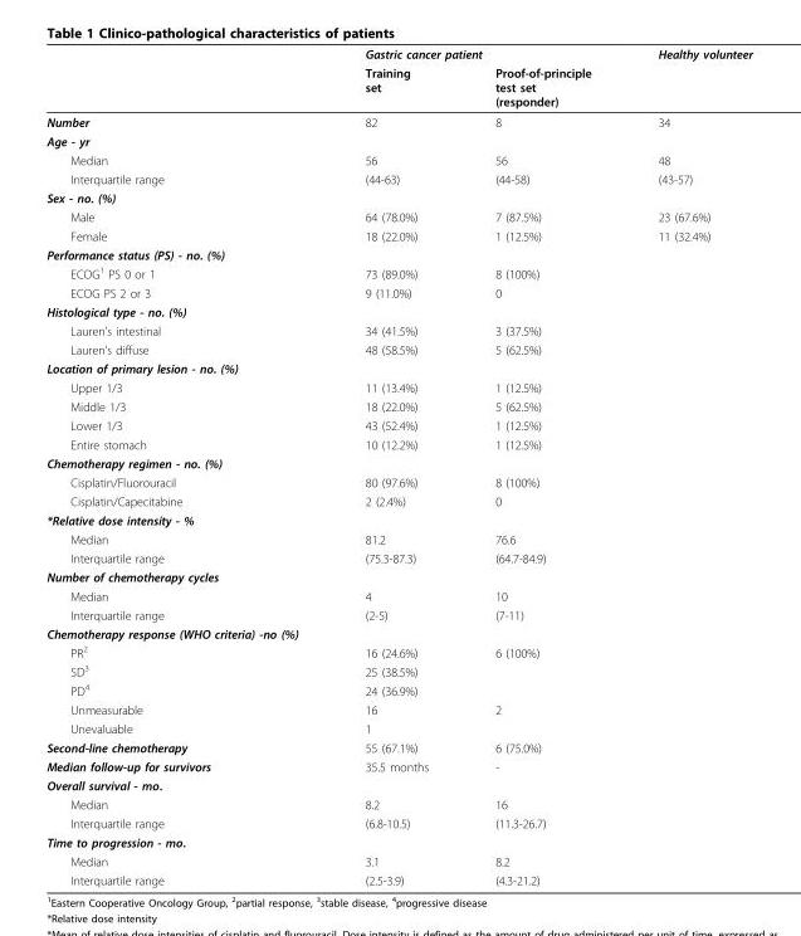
<table><thead><tr><td rowspan="2"></td><td colspan="2">Gastric cancer patient</td><td rowspan="2">Healthy volunteer</td></tr><tr><td>Training set</td><td>Proof-of-principle test set (responder)</td></tr></thead><tbody><tr><td>Number</td><td>82</td><td>8</td><td>34</td></tr><tr><td colspan="4">Age - yr</td></tr><tr><td>Median</td><td>56</td><td>56</td><td>48</td></tr><tr><td>Interquartile range</td><td>(44-63)</td><td>(44-58)</td><td>(43-57)</td></tr><tr><td colspan="4">Sex - no. (%)</td></tr><tr><td>Male</td><td>64 (78.0%)</td><td>7 (87.5%)</td><td>23 (67.6%)</td></tr><tr><td>Female</td><td>18 (22.0%)</td><td>1 (12.5%)</td><td>11 (32.4%)</td></tr><tr><td colspan="4">Performance status (PS) - no. (%)</td></tr><tr><td>ECOG<sup>1</sup> PS 0 or 1</td><td>73 (89.0%)</td><td>8 (100%)</td><td></td></tr><tr><td>ECOG PS 2 or 3</td><td>9 (11.0%)</td><td>0</td><td></td></tr><tr><td colspan="4">Histological type - no. (%)</td></tr><tr><td>Lauren’s intestinal</td><td>34 (41.5%)</td><td>3 (37.5%)</td><td></td></tr><tr><td>Lauren’s diffuse</td><td>48 (58.5%)</td><td>5 (62.5%)</td><td></td></tr><tr><td colspan="4">Location of primary lesion - no. (%)</td></tr><tr><td>Upper 1/3</td><td>11 (13.4%)</td><td>1 (12.5%)</td><td></td></tr><tr><td>Middle 1/3</td><td>18 (22.0%)</td><td>5 (62.5%)</td><td></td></tr><tr><td>Lower 1/3</td><td>43 (52.4%)</td><td>1 (12.5%)</td><td></td></tr><tr><td>Entire stomach</td><td>10 (12.2%)</td><td>1 (12.5%)</td><td></td></tr><tr><td colspan="4">Chemotherapy regimen - no. (%)</td></tr><tr><td>Cisplatin/Fluorouracil</td><td>80 (97.6%)</td><td>8 (100%)</td><td></td></tr><tr><td>Cisplatin/Capecitabine</td><td>2 (2.4%)</td><td>0</td><td></td></tr><tr><td colspan="4">*Relative dose intensity - %</td></tr><tr><td>Median</td><td>81.2</td><td>76.6</td><td></td></tr><tr><td>Interquartile range</td><td>(75.3-87.3)</td><td>(64.7-84.9)</td><td></td></tr><tr><td colspan="4">Number of chemotherapy cycles</td></tr><tr><td>Median</td><td>4</td><td>10</td><td></td></tr><tr><td>Interquartile range</td><td>(2-5)</td><td>(7-11)</td><td></td></tr><tr><td colspan="4">Chemotherapy response (WHO criteria) -no (%)</td></tr><tr><td>PR<sup>2</sup></td><td>16 (24.6%)</td><td>6 (100%)</td><td></td></tr><tr><td>SD<sup>3</sup></td><td>25 (38.5%)</td><td></td><td></td></tr><tr><td>PD<sup>4</sup></td><td>24 (36.9%)</td><td></td><td></td></tr><tr><td>Unmeasurable</td><td>16</td><td>2</td><td></td></tr><tr><td>Unevaluable</td><td>1</td><td></td><td></td></tr><tr><td>Second-line chemotherapy</td><td>55 (67.1%)</td><td>6 (75.0%)</td><td></td></tr><tr><td>Median follow-up for survivors</td><td>35.5 months</td><td>-</td><td></td></tr><tr><td colspan="4">Overall survival - mo.</td></tr><tr><td>Median</td><td>8.2</td><td>16</td><td></td></tr><tr><td>Interquartile range</td><td>(6.8-10.5)</td><td>(11.3-26.7)</td><td></td></tr><tr><td colspan="4">Time to progression - mo.</td></tr><tr><td>Median</td><td>3.1</td><td>8.2</td><td></td></tr><tr><td>Interquartile range</td><td>(2.5-3.9)</td><td>(4.3-21.2)</td><td></td></tr></tbody></table>